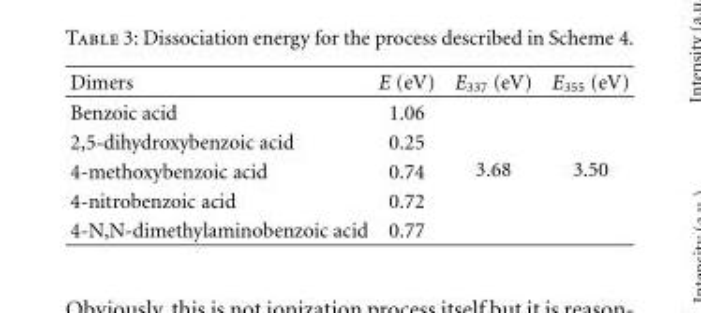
<table><thead><tr><td>Dimers</td><td>E (eV)</td><td>E<sub>337</sub> (eV)</td><td>E<sub>355</sub> (eV)</td></tr></thead><tbody><tr><td>Benzoic acid</td><td>1.06</td><td rowspan="5">3.68</td><td rowspan="5">3.50</td></tr><tr><td>2,5-dihydroxybenzoic acid</td><td>0.25</td></tr><tr><td>4-methoxybenzoic acid</td><td>0.74</td></tr><tr><td>4-nitrobenzoic acid</td><td>0.72</td></tr><tr><td>4-N,N-dimethylaminobenzoic acid</td><td>0.77</td></tr></tbody></table>